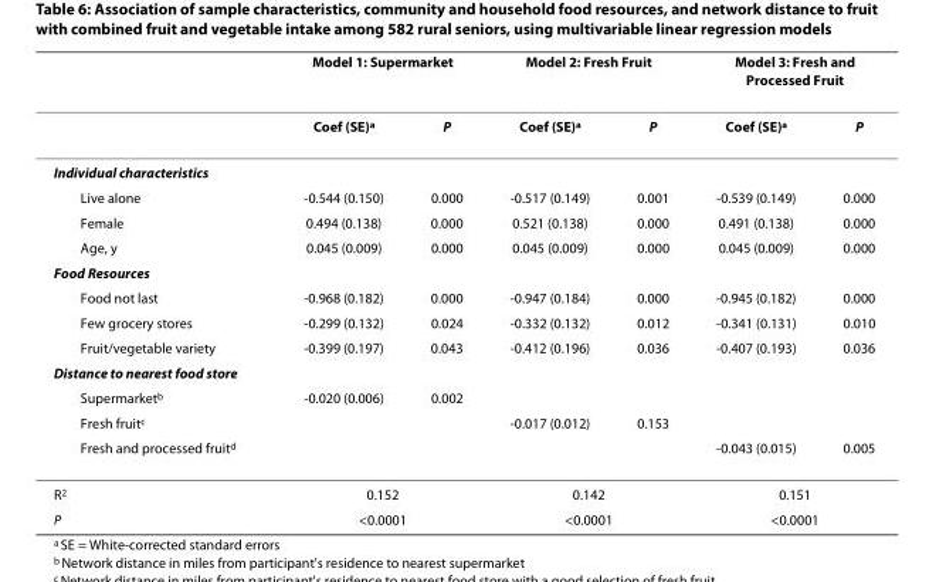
<table><thead><tr><td rowspan="2"></td><td colspan="2">Model 1: Supermarket</td><td colspan="2">Model 2: Fresh Fruit</td><td colspan="2">Model 3: Fresh and Processed Fruit</td></tr><tr><td>Coef (SE)<sup>a</sup></td><td>P</td><td>Coef (SE)<sup>a</sup></td><td>P</td><td>Coef (SE)<sup>a</sup></td><td>P</td></tr></thead><tbody><tr><td colspan="7">Individual characteristics</td></tr><tr><td>Live alone</td><td>-0.544 (0.150)</td><td>0.000</td><td>-0.517 (0.149)</td><td>0.001</td><td>-0.539 (0.149)</td><td>0.000</td></tr><tr><td>Female</td><td>0.494 (0.138)</td><td>0.000</td><td>0.521 (0.138)</td><td>0.000</td><td>0.491 (0.138)</td><td>0.000</td></tr><tr><td>Age, y</td><td>0.045 (0.009)</td><td>0.000</td><td>0.045 (0.009)</td><td>0.000</td><td>0.045 (0.009)</td><td>0.000</td></tr><tr><td colspan="7">Food Resources</td></tr><tr><td>Food not last</td><td>-0.968 (0.182)</td><td>0.000</td><td>-0.947 (0.184)</td><td>0.000</td><td>-0.945 (0.182)</td><td>0.000</td></tr><tr><td>Few grocery stores</td><td>-0.299 (0.132)</td><td>0.024</td><td>-0.332 (0.132)</td><td>0.012</td><td>-0.341 (0.131)</td><td>0.010</td></tr><tr><td>Fruit/vegetable variety</td><td>-0.399 (0.197)</td><td>0.043</td><td>-0.412 (0.196)</td><td>0.036</td><td>-0.407 (0.193)</td><td>0.036</td></tr><tr><td colspan="7">Distance to nearest food store</td></tr><tr><td>Supermarket<sup>b</sup></td><td>-0.020 (0.006)</td><td>0.002</td><td></td><td></td><td></td><td></td></tr><tr><td>Fresh fruit<sup>c</sup></td><td></td><td></td><td>-0.017 (0.012)</td><td>0.153</td><td></td><td></td></tr><tr><td>Fresh and processed fruit<sup>d</sup></td><td></td><td></td><td></td><td></td><td>-0.043 (0.015)</td><td>0.005</td></tr><tr><td>R<sup>2</sup></td><td colspan="2">0.152</td><td colspan="2">0.142</td><td colspan="2">0.151</td></tr><tr><td>P</td><td colspan="2">&lt;0.0001</td><td colspan="2">&lt;0.0001</td><td colspan="2">&lt;0.0001</td></tr></tbody></table>